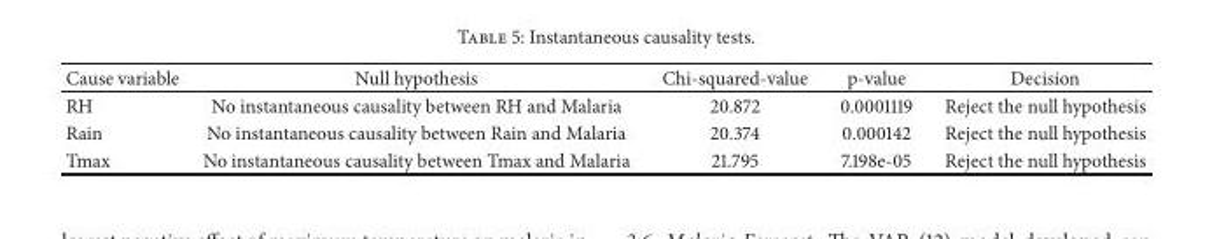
<table><thead><tr><td>Cause variable</td><td>Null hypothesis</td><td>Chi-squared-value</td><td>p-value</td><td>Decision</td></tr></thead><tbody><tr><td>RH</td><td>No instantaneous causality between RH and Malaria</td><td>20.872</td><td>0.0001119</td><td>Reject the null hypothesis</td></tr><tr><td>Rain</td><td>No instantaneous causality between Rain and Malaria</td><td>20.374</td><td>0.000142</td><td>Reject the null hypothesis</td></tr><tr><td>Tmax</td><td>No instantaneous causality between Tmax and Malaria</td><td>21.795</td><td>7.198e-05</td><td>Reject the null hypothesis</td></tr></tbody></table>